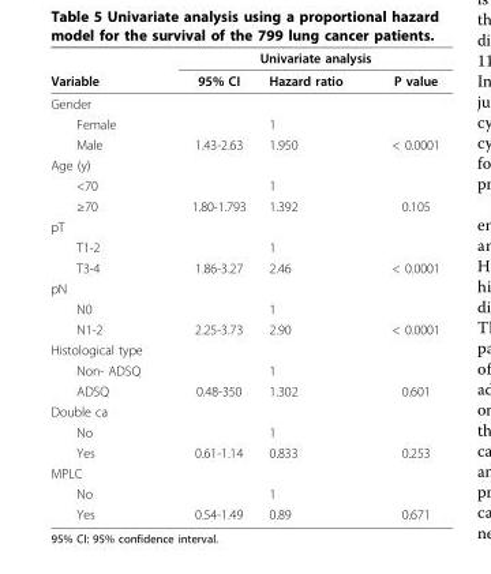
<table><thead><tr><td rowspan="2">Variable</td><td colspan="3">Univariate analysis</td></tr><tr><td>95% CI</td><td>Hazard ratio</td><td>P value</td></tr></thead><tbody><tr><td colspan="4">Gender</td></tr><tr><td>Female</td><td></td><td>1</td><td></td></tr><tr><td>Male</td><td>1.43-2.63</td><td>1.950</td><td>&lt; 0.0001</td></tr><tr><td colspan="4">Age (y)</td></tr><tr><td>&lt;70</td><td></td><td>1</td><td></td></tr><tr><td>≥70</td><td>1.80-1.793</td><td>1.392</td><td>0.105</td></tr><tr><td colspan="4">pT</td></tr><tr><td>T1-2</td><td></td><td>1</td><td></td></tr><tr><td>T3-4</td><td>1.86-3.27</td><td>2.46</td><td>&lt; 0.0001</td></tr><tr><td colspan="4">pN</td></tr><tr><td>N0</td><td></td><td>1</td><td></td></tr><tr><td>N1-2</td><td>2.25-3.73</td><td>2.90</td><td>&lt; 0.0001</td></tr><tr><td colspan="4">Histological type</td></tr><tr><td>Non- ADSQ</td><td></td><td>1</td><td></td></tr><tr><td>ADSQ</td><td>0.48-350</td><td>1.302</td><td>0.601</td></tr><tr><td colspan="4">Double ca</td></tr><tr><td>No</td><td></td><td>1</td><td></td></tr><tr><td>Yes</td><td>0.61-1.14</td><td>0.833</td><td>0.253</td></tr><tr><td colspan="4">MPLC</td></tr><tr><td>No</td><td></td><td>1</td><td></td></tr><tr><td>Yes</td><td>0.54-1.49</td><td>0.89</td><td>0.671</td></tr></tbody></table>